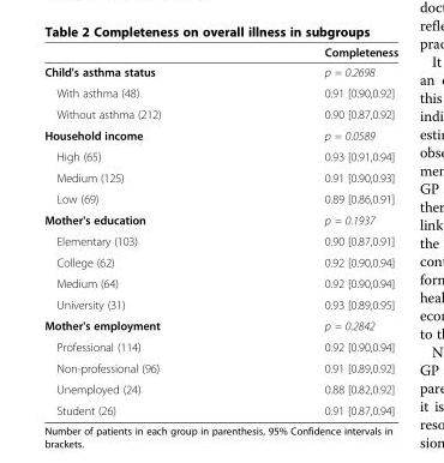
<table><thead><tr><td></td><td>Completeness</td></tr></thead><tbody><tr><td>Child&#x27;s asthma status</td><td>p = 0.2698</td></tr><tr><td>With asthma (48)</td><td>0.91 [0.90,0.92]</td></tr><tr><td>Without asthma (212)</td><td>0.90 [0.87,0.92]</td></tr><tr><td>Household income</td><td>p = 0.0589</td></tr><tr><td>High (65)</td><td>0.93 [0.91,0.94]</td></tr><tr><td>Medium (125)</td><td>0.91 [0.90,0.93]</td></tr><tr><td>Low (69)</td><td>0.89 [0.86,0.91]</td></tr><tr><td>Mother&#x27;s education</td><td>p = 0.1937</td></tr><tr><td>Elementary (103)</td><td>0.90 [0.87,0.91]</td></tr><tr><td>College (62)</td><td>0.92 [0.90,0.94]</td></tr><tr><td>Medium (64)</td><td>0.92 [0.90,0.94]</td></tr><tr><td>University (31)</td><td>0.93 [0.89,0.95]</td></tr><tr><td>Mother&#x27;s employment</td><td>p = 0.2842</td></tr><tr><td>Professional (114)</td><td>0.92 [0.90,0.94]</td></tr><tr><td>Non-professional (96)</td><td>0.91 [0.89,0.92]</td></tr><tr><td>Unemployed (24)</td><td>0.88 [0.82,0.92]</td></tr><tr><td>Student (26)</td><td>0.91 [0.87,0.94]</td></tr></tbody></table>